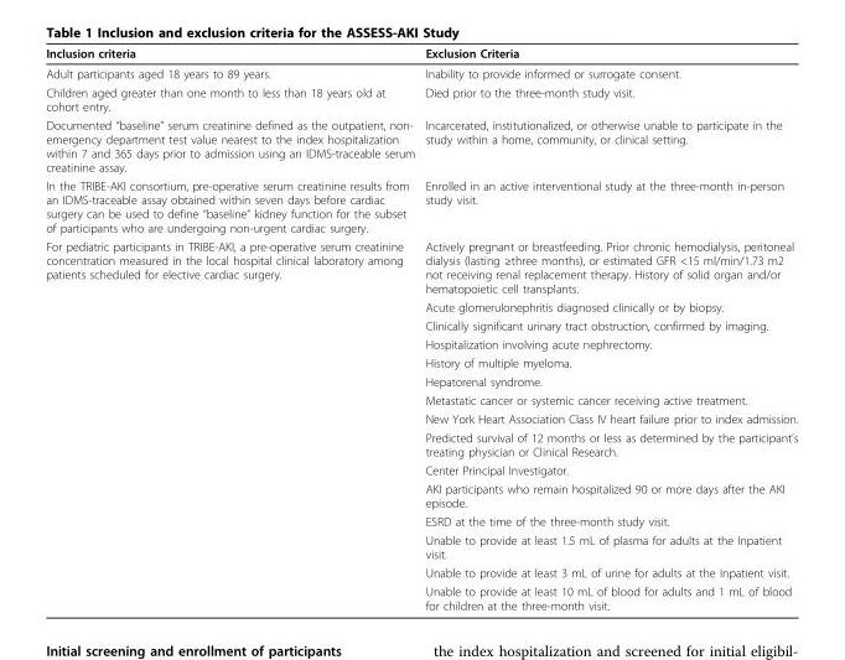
<table><thead><tr><td>Inclusion criteria</td><td>Exclusion Criteria</td></tr></thead><tbody><tr><td>Adult participants aged 18 years to 89 years.</td><td>Inability to provide informed or surrogate consent.</td></tr><tr><td>Children aged greater than one month to less than 18 years old at cohort entry.</td><td>Died prior to the three-month study visit.</td></tr><tr><td>Documented “baseline” serum creatinine defined as the outpatient, non- emergency department test value nearest to the index hospitalization within 7 and 365 days prior to admission using an IDMS-traceable serum creatinine assay.</td><td>Incarcerated, institutionalized, or otherwise unable to participate in the study within a home, community, or clinical setting.</td></tr><tr><td>In the TRIBE-AKI consortium, pre-operative serum creatinine results from an IDMS-traceable assay obtained within seven days before cardiac surgery can be used to define “baseline” kidney function for the subset of participants who are undergoing non-urgent cardiac surgery.</td><td>Enrolled in an active interventional study at the three-month in-person study visit.</td></tr><tr><td rowspan="15">For pediatric participants in TRIBE-AKI, a pre-operative serum creatinine concentration measured in the local hospital clinical laboratory among patients scheduled for elective cardiac surgery.</td><td>Actively pregnant or breastfeeding. Prior chronic hemodialysis, peritoneal dialysis (lasting ≥three months), or estimated GFR &lt;15 ml/min/1.73 m2 not receiving renal replacement therapy. History of solid organ and/or hematopoietic cell transplants.</td></tr><tr><td>Acute glomerulonephritis diagnosed clinically or by biopsy.</td></tr><tr><td>Clinically significant urinary tract obstruction, confirmed by imaging.</td></tr><tr><td>Hospitalization involving acute nephrectomy.</td></tr><tr><td>History of multiple myeloma.</td></tr><tr><td>Hepatorenal syndrome.</td></tr><tr><td>Metastatic cancer or systemic cancer receiving active treatment.</td></tr><tr><td>New York Heart Association Class IV heart failure prior to index admission.</td></tr><tr><td>Predicted survival of 12 months or less as determined by the participant’s treating physician or Clinical Research.</td></tr><tr><td>Center Principal Investigator.</td></tr><tr><td>AKI participants who remain hospitalized 90 or more days after the AKI episode.</td></tr><tr><td>ESRD at the time of the three-month study visit.</td></tr><tr><td>Unable to provide at least 1.5 mL of plasma for adults at the Inpatient visit.</td></tr><tr><td>Unable to provide at least 3 mL of urine for adults at the Inpatient visit.</td></tr><tr><td>Unable to provide at least 10 mL of blood for adults and 1 mL of blood for children at the three-month visit.</td></tr></tbody></table>